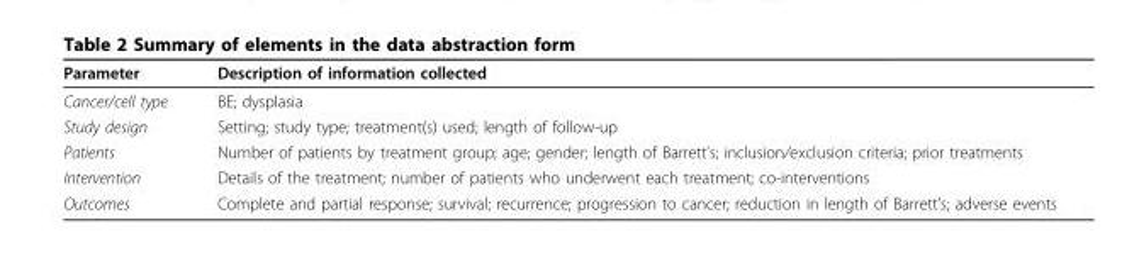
<table><thead><tr><td>Parameter</td><td>Description of information collected</td></tr></thead><tbody><tr><td>Cancer/cell type</td><td>BE; dysplasia</td></tr><tr><td>Study design</td><td>Setting; study type; treatment(s) used; length of follow-up</td></tr><tr><td>Patients</td><td>Number of patients by treatment group; age; gender; length of Barrett’s; inclusion/exclusion criteria; prior treatments</td></tr><tr><td>Intervention</td><td>Details of the treatment; number of patients who underwent each treatment; co-interventions</td></tr><tr><td>Outcomes</td><td>Complete and partial response; survival; recurrence; progression to cancer; reduction in length of Barrett’s; adverse events</td></tr></tbody></table>